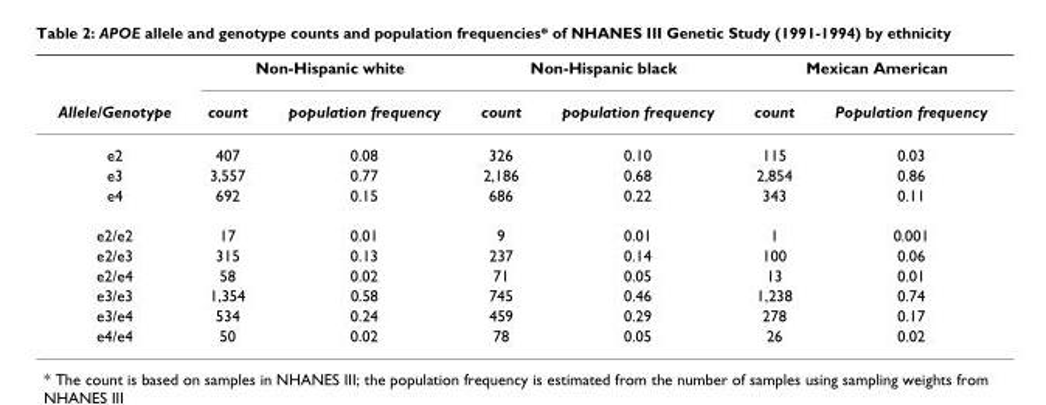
<table><thead><tr><td rowspan="2">Allele/Genotype</td><td colspan="2">Non-Hispanic white</td><td colspan="2">Non-Hispanic black</td><td colspan="2">Mexican American</td></tr><tr><td>count</td><td>population frequency</td><td>count</td><td>population frequency</td><td>count</td><td>Population frequency</td></tr></thead><tbody><tr><td>e2</td><td>407</td><td>0.08</td><td>326</td><td>0.10</td><td>115</td><td>0.03</td></tr><tr><td>e3</td><td>3,557</td><td>0.77</td><td>2,186</td><td>0.68</td><td>2,854</td><td>0.86</td></tr><tr><td>e4</td><td>692</td><td>0.15</td><td>686</td><td>0.22</td><td>343</td><td>0.11</td></tr><tr><td>e2/e2</td><td>17</td><td>0.01</td><td>9</td><td>0.01</td><td>1</td><td>0.001</td></tr><tr><td>e2/e3</td><td>315</td><td>0.13</td><td>237</td><td>0.14</td><td>100</td><td>0.06</td></tr><tr><td>e2/e4</td><td>58</td><td>0.02</td><td>71</td><td>0.05</td><td>13</td><td>0.01</td></tr><tr><td>e3/e3</td><td>1,354</td><td>0.58</td><td>745</td><td>0.46</td><td>1,238</td><td>0.74</td></tr><tr><td>e3/e4</td><td>534</td><td>0.24</td><td>459</td><td>0.29</td><td>278</td><td>0.17</td></tr><tr><td>e4/e4</td><td>50</td><td>0.02</td><td>78</td><td>0.05</td><td>26</td><td>0.02</td></tr></tbody></table>